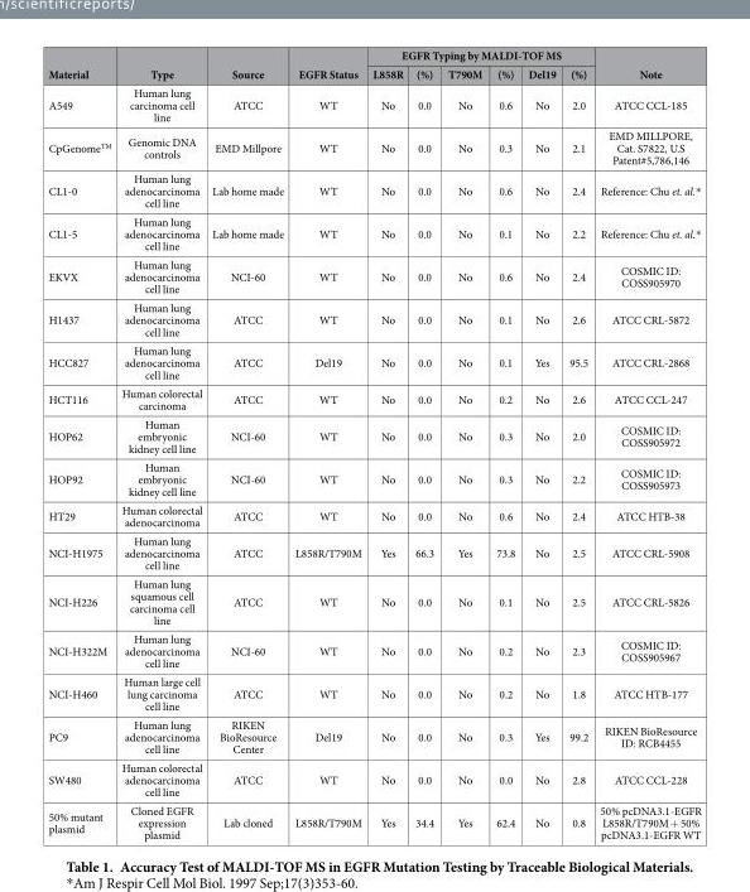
<table><thead><tr><td rowspan="2">Material</td><td rowspan="2">Type</td><td rowspan="2">Source</td><td rowspan="2">EGFR Status</td><td colspan="6">EGFR Typing by MALDI-TOF MS</td><td rowspan="2">Note</td></tr><tr><td>L858R</td><td>(%)</td><td>T790M</td><td>(%)</td><td>Del19</td><td>(%)</td></tr></thead><tbody><tr><td>A549</td><td>Human lung carcinoma cell line</td><td>ATCC</td><td>WT</td><td>No</td><td>0.0</td><td>No</td><td>0.6</td><td>No</td><td>2.0</td><td>ATCC CCL-185</td></tr><tr><td>CpGenome<sup>TM</sup></td><td>Genomic DNA controls</td><td>EMD Millpore</td><td>WT</td><td>No</td><td>0.0</td><td>No</td><td>0.3</td><td>No</td><td>2.1</td><td>EMD MILLPORE, Cat. S7822, U.S Patent#5,786,146</td></tr><tr><td>CL1-0</td><td>Human lung adenocarcinoma cell line</td><td>Lab home made</td><td>WT</td><td>No</td><td>0.0</td><td>No</td><td>0.6</td><td>No</td><td>2.4</td><td>Reference: Chu et. al.*</td></tr><tr><td>CL1-5</td><td>Human lung adenocarcinoma cell line</td><td>Lab home made</td><td>WT</td><td>No</td><td>0.0</td><td>No</td><td>0.1</td><td>No</td><td>2.2</td><td>Reference: Chu et. al.*</td></tr><tr><td>EKVX</td><td>Human lung adenocarcinoma cell line</td><td>NCI-60</td><td>WT</td><td>No</td><td>0.0</td><td>No</td><td>0.6</td><td>No</td><td>2.4</td><td>COSMIC ID: COSS905970</td></tr><tr><td>H1437</td><td>Human lung adenocarcinoma cell line</td><td>ATCC</td><td>WT</td><td>No</td><td>0.0</td><td>No</td><td>0.1</td><td>No</td><td>2.6</td><td>ATCC CRL-5872</td></tr><tr><td>HCC827</td><td>Human lung adenocarcinoma cell line</td><td>ATCC</td><td>Del19</td><td>No</td><td>0.0</td><td>No</td><td>0.1</td><td>Yes</td><td>95.5</td><td>ATCC CRL-2868</td></tr><tr><td>HCT116</td><td>Human colorectal carcinoma</td><td>ATCC</td><td>WT</td><td>No</td><td>0.0</td><td>No</td><td>0.2</td><td>No</td><td>2.6</td><td>ATCC CCL-247</td></tr><tr><td>HOP62</td><td>Human embryonic kidney cell line</td><td>NCI-60</td><td>WT</td><td>No</td><td>0.0</td><td>No</td><td>0.3</td><td>No</td><td>2.0</td><td>COSMIC ID: COSS905972</td></tr><tr><td>HOP92</td><td>Human embryonic kidney cell line</td><td>NCI-60</td><td>WT</td><td>No</td><td>0.0</td><td>No</td><td>0.3</td><td>No</td><td>2.2</td><td>COSMIC ID: COSS905973</td></tr><tr><td>HT29</td><td>Human colorectal adenocarcinoma</td><td>ATCC</td><td>WT</td><td>No</td><td>0.0</td><td>No</td><td>0.6</td><td>No</td><td>2.4</td><td>ATCC HTB-38</td></tr><tr><td>NCI-H1975</td><td>Human lung adenocarcinoma cell line</td><td>ATCC</td><td>L858R/T790M</td><td>Yes</td><td>66.3</td><td>Yes</td><td>73.8</td><td>No</td><td>2.5</td><td>ATCC CRL-5908</td></tr><tr><td>NCI-H226</td><td>Human lung squamous cell carcinoma cell line</td><td>ATCC</td><td>WT</td><td>No</td><td>0.0</td><td>No</td><td>0.1</td><td>No</td><td>2.5</td><td>ATCC CRL-5826</td></tr><tr><td>NCI-H322M</td><td>Human lung adenocarcinoma cell line</td><td>NCI-60</td><td>WT</td><td>No</td><td>0.0</td><td>No</td><td>0.2</td><td>No</td><td>2.3</td><td>COSMIC ID: COSS905967</td></tr><tr><td>NCI-H460</td><td>Human large cell lung carcinoma cell line</td><td>ATCC</td><td>WT</td><td>No</td><td>0.0</td><td>No</td><td>0.2</td><td>No</td><td>1.8</td><td>ATCC HTB-177</td></tr><tr><td>PC9</td><td>Human lung adenocarcinoma cell line</td><td>RIKEN BioResource Center</td><td>Del19</td><td>No</td><td>0.0</td><td>No</td><td>0.3</td><td>Yes</td><td>99.2</td><td>RIKEN BioResource ID: RCB4455</td></tr><tr><td>SW480</td><td>Human colorectal adenocarcinoma cell line</td><td>ATCC</td><td>WT</td><td>No</td><td>0.0</td><td>No</td><td>0.0</td><td>No</td><td>2.8</td><td>ATCC CCL-228</td></tr><tr><td>50% mutant plasmid</td><td>Cloned EGFR expression plasmid</td><td>Lab cloned</td><td>L858R/T790M</td><td>Yes</td><td>34.4</td><td>Yes</td><td>62.4</td><td>No</td><td>0.8</td><td>50% pcDNA3.1-EGFR L858R/T790M + 50% pcDNA3.1-EGFR WT</td></tr></tbody></table>